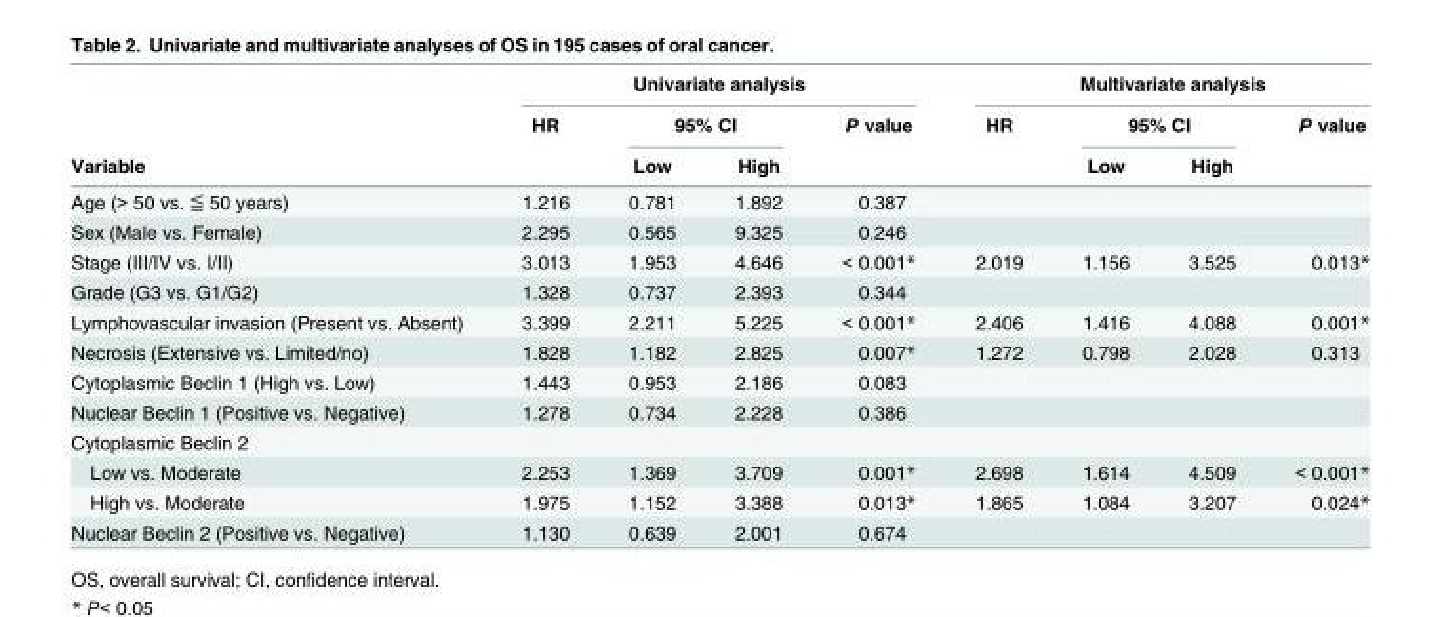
<table><thead><tr><td rowspan="3">Variable</td><td colspan="4">Univariate analysis</td><td colspan="4">Multivariate analysis</td></tr><tr><td rowspan="2">HR</td><td colspan="2">95% CI</td><td rowspan="2">P value</td><td rowspan="2">HR</td><td colspan="2">95% CI</td><td rowspan="2">P value</td></tr><tr><td>Low</td><td>High</td><td>Low</td><td>High</td></tr></thead><tbody><tr><td>Age (&gt; 50 vs. ≦ 50 years)</td><td>1.216</td><td>0.781</td><td>1.892</td><td>0.387</td><td></td><td></td><td></td><td></td></tr><tr><td>Sex (Male vs. Female)</td><td>2.295</td><td>0.565</td><td>9.325</td><td>0.246</td><td></td><td></td><td></td><td></td></tr><tr><td>Stage (III/IV vs. I/II)</td><td>3.013</td><td>1.953</td><td>4.646</td><td>&lt; 0.001*</td><td>2.019</td><td>1.156</td><td>3.525</td><td>0.013*</td></tr><tr><td>Grade (G3 vs. G1/G2)</td><td>1.328</td><td>0.737</td><td>2.393</td><td>0.344</td><td></td><td></td><td></td><td></td></tr><tr><td>Lymphovascular invasion (Present vs. Absent)</td><td>3.399</td><td>2.211</td><td>5.225</td><td>&lt; 0.001*</td><td>2.406</td><td>1.416</td><td>4.088</td><td>0.001*</td></tr><tr><td>Necrosis (Extensive vs. Limited/no)</td><td>1.828</td><td>1.182</td><td>2.825</td><td>0.007*</td><td>1.272</td><td>0.798</td><td>2.028</td><td>0.313</td></tr><tr><td>Cytoplasmic Beclin 1 (High vs. Low)</td><td>1.443</td><td>0.953</td><td>2.186</td><td>0.083</td><td></td><td></td><td></td><td></td></tr><tr><td>Nuclear Beclin 1 (Positive vs. Negative)</td><td>1.278</td><td>0.734</td><td>2.228</td><td>0.386</td><td></td><td></td><td></td><td></td></tr><tr><td colspan="9">Cytoplasmic Beclin 2</td></tr><tr><td>Low vs. Moderate</td><td>2.253</td><td>1.369</td><td>3.709</td><td>0.001*</td><td>2.698</td><td>1.614</td><td>4.509</td><td>&lt; 0.001*</td></tr><tr><td>High vs. Moderate</td><td>1.975</td><td>1.152</td><td>3.388</td><td>0.013*</td><td>1.865</td><td>1.084</td><td>3.207</td><td>0.024*</td></tr><tr><td>Nuclear Beclin 2 (Positive vs. Negative)</td><td>1.130</td><td>0.639</td><td>2.001</td><td>0.674</td><td></td><td></td><td></td><td></td></tr></tbody></table>